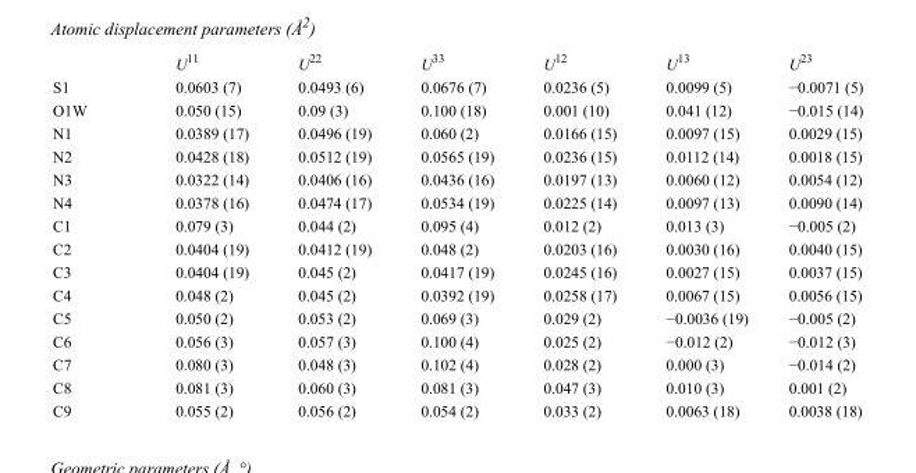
<table><thead><tr><td></td><td>U<sup>11</sup></td><td>U<sup>22</sup></td><td>U<sup>33</sup></td><td>U<sup>12</sup></td><td>U<sup>13</sup></td><td>U<sup>23</sup></td></tr></thead><tbody><tr><td>S1</td><td>0.0603 (7)</td><td>0.0493 (6)</td><td>0.0676 (7)</td><td>0.0236 (5)</td><td>0.0099 (5)</td><td>−0.0071 (5)</td></tr><tr><td>O1W</td><td>0.050 (15)</td><td>0.09 (3)</td><td>0.100 (18)</td><td>0.001 (10)</td><td>0.041 (12)</td><td>−0.015 (14)</td></tr><tr><td>N1</td><td>0.0389 (17)</td><td>0.0496 (19)</td><td>0.060 (2)</td><td>0.0166 (15)</td><td>0.0097 (15)</td><td>0.0029 (15)</td></tr><tr><td>N2</td><td>0.0428 (18)</td><td>0.0512 (19)</td><td>0.0565 (19)</td><td>0.0236 (15)</td><td>0.0112 (14)</td><td>0.0018 (15)</td></tr><tr><td>N3</td><td>0.0322 (14)</td><td>0.0406 (16)</td><td>0.0436 (16)</td><td>0.0197 (13)</td><td>0.0060 (12)</td><td>0.0054 (12)</td></tr><tr><td>N4</td><td>0.0378 (16)</td><td>0.0474 (17)</td><td>0.0534 (19)</td><td>0.0225 (14)</td><td>0.0097 (13)</td><td>0.0090 (14)</td></tr><tr><td>C1</td><td>0.079 (3)</td><td>0.044 (2)</td><td>0.095 (4)</td><td>0.012 (2)</td><td>0.013 (3)</td><td>−0.005 (2)</td></tr><tr><td>C2</td><td>0.0404 (19)</td><td>0.0412 (19)</td><td>0.048 (2)</td><td>0.0203 (16)</td><td>0.0030 (16)</td><td>0.0040 (15)</td></tr><tr><td>C3</td><td>0.0404 (19)</td><td>0.045 (2)</td><td>0.0417 (19)</td><td>0.0245 (16)</td><td>0.0027 (15)</td><td>0.0037 (15)</td></tr><tr><td>C4</td><td>0.048 (2)</td><td>0.045 (2)</td><td>0.0392 (19)</td><td>0.0258 (17)</td><td>0.0067 (15)</td><td>0.0056 (15)</td></tr><tr><td>C5</td><td>0.050 (2)</td><td>0.053 (2)</td><td>0.069 (3)</td><td>0.029 (2)</td><td>−0.0036 (19)</td><td>−0.005 (2)</td></tr><tr><td>C6</td><td>0.056 (3)</td><td>0.057 (3)</td><td>0.100 (4)</td><td>0.025 (2)</td><td>−0.012 (2)</td><td>−0.012 (3)</td></tr><tr><td>C7</td><td>0.080 (3)</td><td>0.048 (3)</td><td>0.102 (4)</td><td>0.028 (2)</td><td>0.000 (3)</td><td>−0.014 (2)</td></tr><tr><td>C8</td><td>0.081 (3)</td><td>0.060 (3)</td><td>0.081 (3)</td><td>0.047 (3)</td><td>0.010 (3)</td><td>0.001 (2)</td></tr><tr><td>C9</td><td>0.055 (2)</td><td>0.056 (2)</td><td>0.054 (2)</td><td>0.033 (2)</td><td>0.0063 (18)</td><td>0.0038 (18)</td></tr></tbody></table>